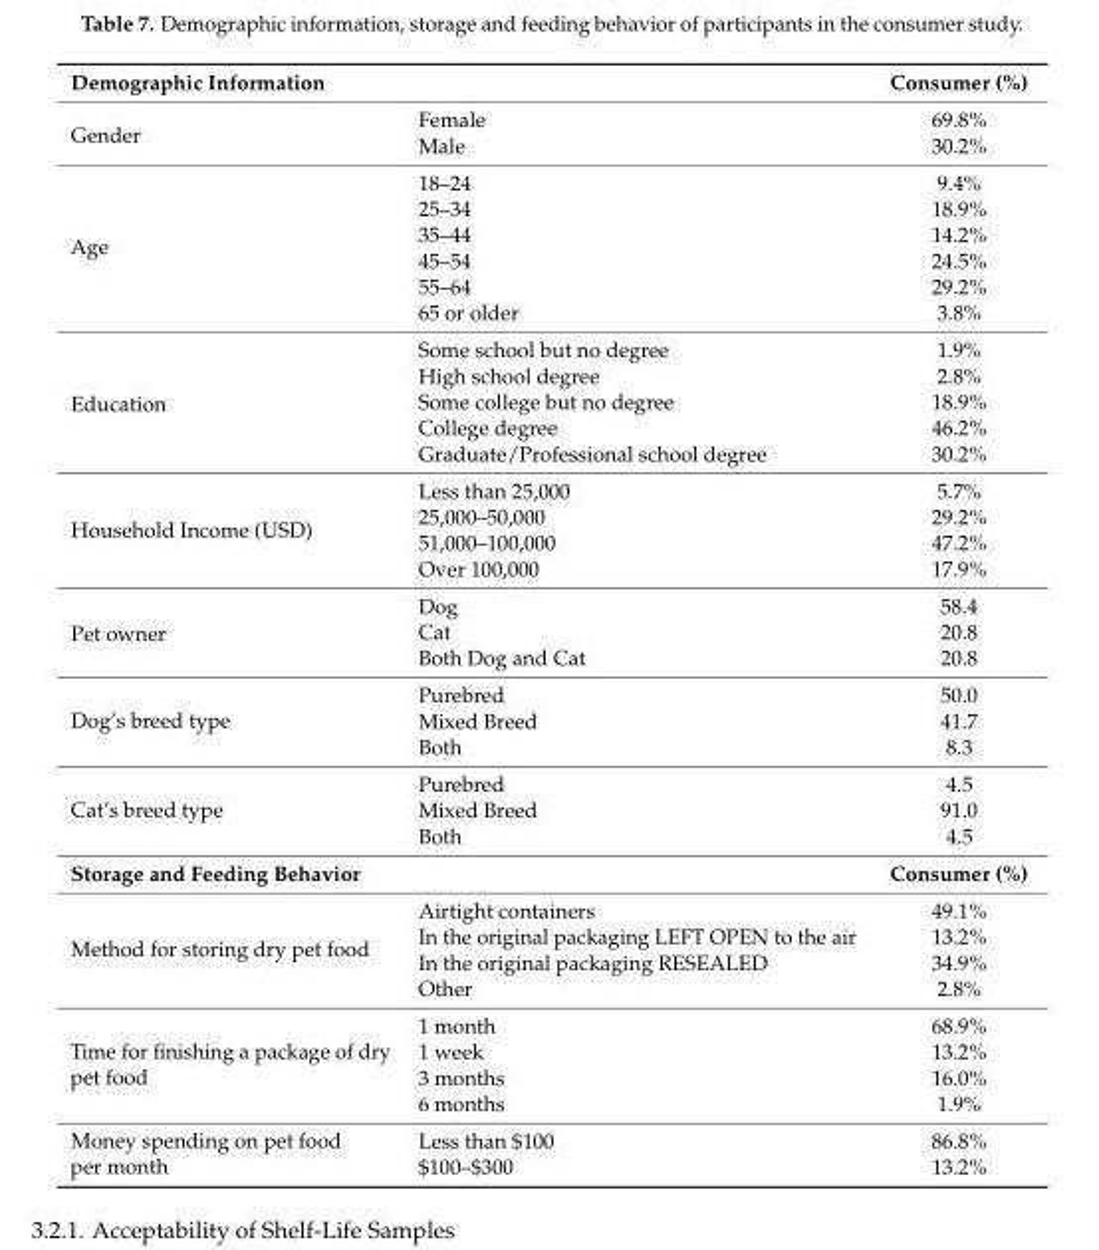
<table><tbody><tr><td colspan="2">Demographic Information</td><td>Consumer (%)</td></tr><tr><td rowspan="2">Gender</td><td>Female</td><td>69.8%</td></tr><tr><td>Male</td><td>30.2%</td></tr><tr><td rowspan="6">Age</td><td>18–24</td><td>9.4%</td></tr><tr><td>25–34</td><td>18.9%</td></tr><tr><td>35–44</td><td>14.2%</td></tr><tr><td>45–54</td><td>24.5%</td></tr><tr><td>55–64</td><td>29.2%</td></tr><tr><td>65 or older</td><td>3.8%</td></tr><tr><td rowspan="5">Education</td><td>Some school but no degree</td><td>1.9%</td></tr><tr><td>High school degree</td><td>2.8%</td></tr><tr><td>Some college but no degree</td><td>18.9%</td></tr><tr><td>College degree</td><td>46.2%</td></tr><tr><td>Graduate/Professional school degree</td><td>30.2%</td></tr><tr><td rowspan="4">Household Income (USD)</td><td>Less than 25,000</td><td>5.7%</td></tr><tr><td>25,000–50,000</td><td>29.2%</td></tr><tr><td>51,000–100,000</td><td>47.2%</td></tr><tr><td>Over 100,000</td><td>17.9%</td></tr><tr><td rowspan="3">Pet owner</td><td>Dog</td><td>58.4</td></tr><tr><td>Cat</td><td>20.8</td></tr><tr><td>Both Dog and Cat</td><td>20.8</td></tr><tr><td rowspan="3">Dog’s breed type</td><td>Purebred</td><td>50.0</td></tr><tr><td>Mixed Breed</td><td>41.7</td></tr><tr><td>Both</td><td>8.3</td></tr><tr><td rowspan="3">Cat’s breed type</td><td>Purebred</td><td>4.5</td></tr><tr><td>Mixed Breed</td><td>91.0</td></tr><tr><td>Both</td><td>4.5</td></tr><tr><td colspan="2">Storage and Feeding Behavior</td><td>Consumer (%)</td></tr><tr><td rowspan="4">Method for storing dry pet food</td><td>Airtight containers</td><td>49.1%</td></tr><tr><td>In the original packaging LEFT OPEN to the air</td><td>13.2%</td></tr><tr><td>In the original packaging RESEALED</td><td>34.9%</td></tr><tr><td>Other</td><td>2.8%</td></tr><tr><td rowspan="4">Time for finishing a package of dry pet food</td><td>1 month</td><td>68.9%</td></tr><tr><td>1 week</td><td>13.2%</td></tr><tr><td>3 months</td><td>16.0%</td></tr><tr><td>6 months</td><td>1.9%</td></tr><tr><td rowspan="2">Money spending on pet food per month</td><td>Less than $100</td><td>86.8%</td></tr><tr><td>$100–$300</td><td>13.2%</td></tr></tbody></table>